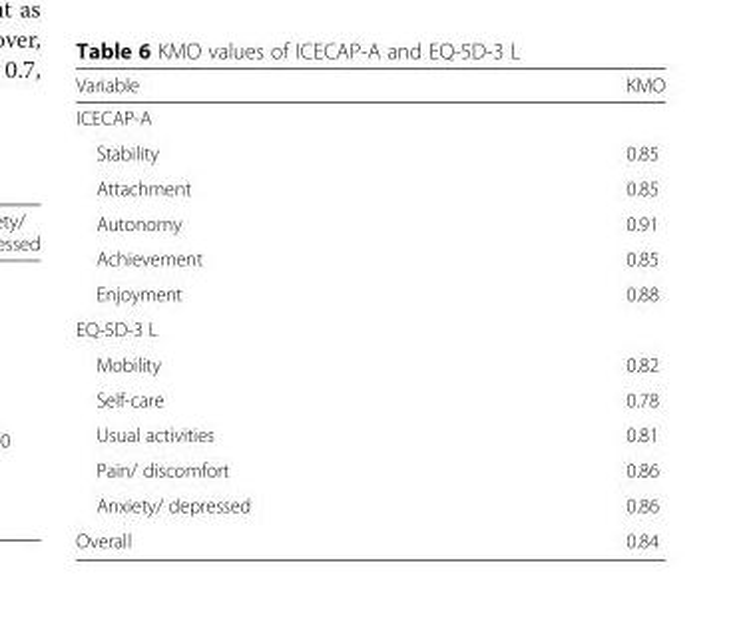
<table><thead><tr><td>Variable</td><td>KMO</td></tr></thead><tbody><tr><td colspan="2">ICECAP-A</td></tr><tr><td>Stability</td><td>0.85</td></tr><tr><td>Attachment</td><td>0.85</td></tr><tr><td>Autonomy</td><td>0.91</td></tr><tr><td>Achievement</td><td>0.85</td></tr><tr><td>Enjoyment</td><td>0.88</td></tr><tr><td colspan="2">EQ-5D-3 L</td></tr><tr><td>Mobility</td><td>0.82</td></tr><tr><td>Self-care</td><td>0.78</td></tr><tr><td>Usual activities</td><td>0.81</td></tr><tr><td>Pain/ discomfort</td><td>0.86</td></tr><tr><td>Anxiety/ depressed</td><td>0.86</td></tr><tr><td>Overall</td><td>0.84</td></tr></tbody></table>